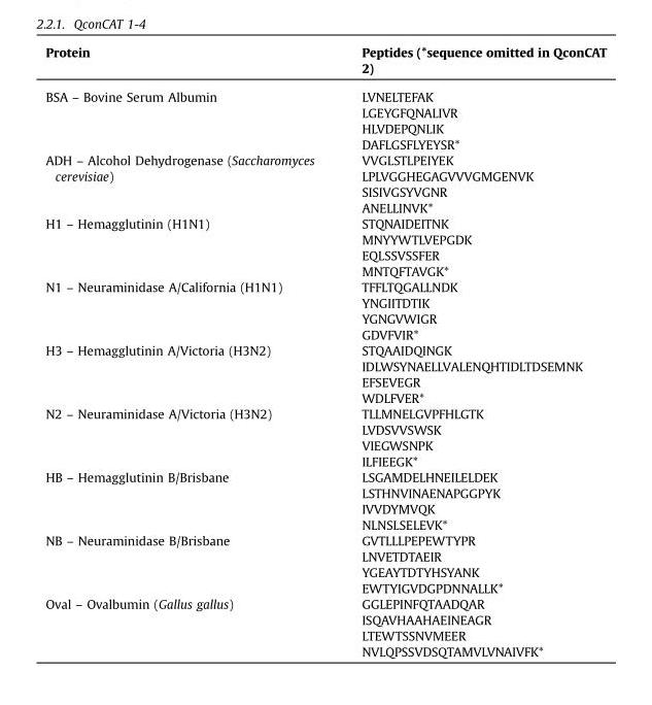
<table><thead><tr><td>Protein</td><td>Peptides (*sequence omitted in QconCAT 2)</td></tr></thead><tbody><tr><td rowspan="4">BSA – Bovine Serum Albumin</td><td>LVNELTEFAK</td></tr><tr><td>LGEYGFQNALIVR</td></tr><tr><td>HLVDEPQNLIK</td></tr><tr><td>DAFLGSFLYEYSR*</td></tr><tr><td rowspan="4">ADH – Alcohol Dehydrogenase (Saccharomyces cerevisiae)</td><td>VVGLSTLPEIYEK</td></tr><tr><td>LPLVGGHEGAGVVVGMGENVK</td></tr><tr><td>SISIVGSYVGNR</td></tr><tr><td>ANELLINVK*</td></tr><tr><td rowspan="4">H1 – Hemagglutinin (H1N1)</td><td>STQNAIDEITNK</td></tr><tr><td>MNYYWTLVEPGDK</td></tr><tr><td>EQLSSVSSFER</td></tr><tr><td>MNTQFTAVGK*</td></tr><tr><td rowspan="4">N1 – Neuraminidase A/California (H1N1)</td><td>TFFLTQGALLNDK</td></tr><tr><td>YNGIITDTIK</td></tr><tr><td>YGNGVWIGR</td></tr><tr><td>GDVFVIR*</td></tr><tr><td rowspan="4">H3 – Hemagglutinin A/Victoria (H3N2)</td><td>STQAAIDQINGK</td></tr><tr><td>IDLWSYNAELLVALENQHTIDLTDSEMNK</td></tr><tr><td>EFSEVEGR</td></tr><tr><td>WDLFVER*</td></tr><tr><td rowspan="4">N2 – Neuraminidase A/Victoria (H3N2)</td><td>TLLMNELGVPFHLGTK</td></tr><tr><td>LVDSVVSWSK</td></tr><tr><td>VIEGWSNPK</td></tr><tr><td>ILFIEEGK*</td></tr><tr><td rowspan="4">HB – Hemagglutinin B/Brisbane</td><td>LSGAMDELHNEILELDEK</td></tr><tr><td>LSTHNVINAENAPGGPYK</td></tr><tr><td>IVVDYMVQK</td></tr><tr><td>NLNSLSELEVK*</td></tr><tr><td rowspan="4">NB – Neuraminidase B/Brisbane</td><td>GVTLLLPEPEWTYPR</td></tr><tr><td>LNVETDTAEIR</td></tr><tr><td>YGEAYTDTYHSYANK</td></tr><tr><td>EWTYIGVDGPDNNALLK*</td></tr><tr><td rowspan="4">Oval – Ovalbumin (Gallus gallus)</td><td>GGLEPINFQTAADQAR</td></tr><tr><td>ISQAVHAAHAEINEAGR</td></tr><tr><td>LTEWTSSNVMEER</td></tr><tr><td>NVLQPSSVDSQTAMVLVNAIVFK*</td></tr></tbody></table>